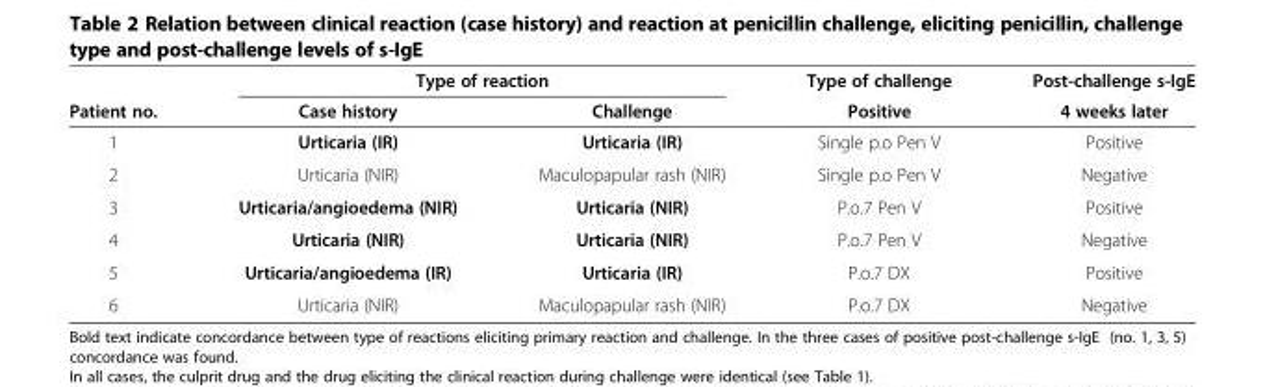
<table><thead><tr><td rowspan="2">Patient no.</td><td colspan="2">Type of reaction</td><td rowspan="2">Type of challenge Positive</td><td rowspan="2">Post-challenge s-IgE 4 weeks later</td></tr><tr><td>Case history</td><td>Challenge</td></tr></thead><tbody><tr><td>1</td><td>Urticaria (IR)</td><td>Urticaria (IR)</td><td>Single p.o Pen V</td><td>Positive</td></tr><tr><td>2</td><td>Urticaria (NIR)</td><td>Maculopapular rash (NIR)</td><td>Single p.o Pen V</td><td>Negative</td></tr><tr><td>3</td><td>Urticaria/angioedema (NIR)</td><td>Urticaria (NIR)</td><td>P.o.7 Pen V</td><td>Positive</td></tr><tr><td>4</td><td>Urticaria (NIR)</td><td>Urticaria (NIR)</td><td>P.o.7 Pen V</td><td>Negative</td></tr><tr><td>5</td><td>Urticaria/angioedema (IR)</td><td>Urticaria (IR)</td><td>P.o.7 DX</td><td>Positive</td></tr><tr><td>6</td><td>Urticaria (NIR)</td><td>Maculopapular rash (NIR)</td><td>P.o.7 DX</td><td>Negative</td></tr></tbody></table>